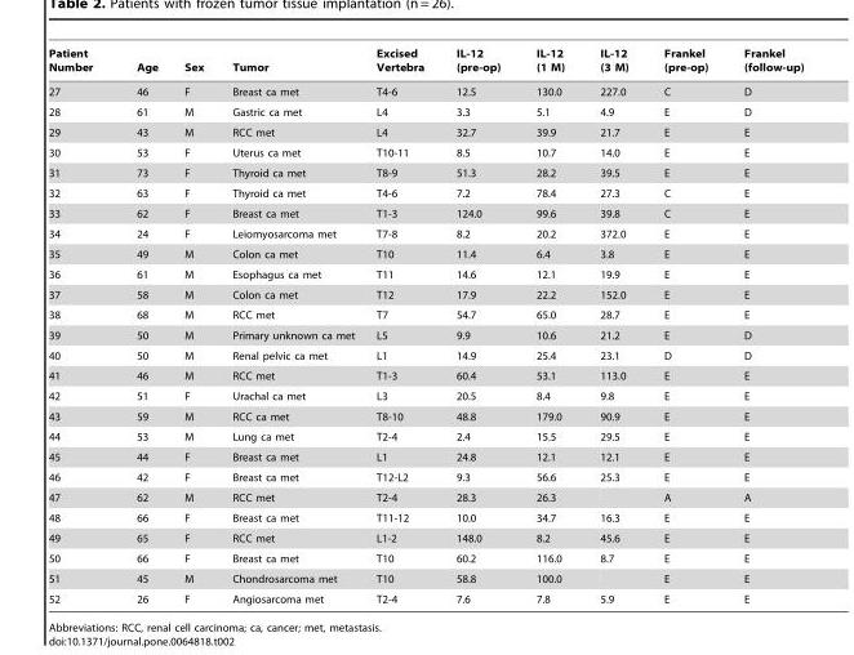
<table><thead><tr><td>Patient Number</td><td>Age</td><td>Sex</td><td>Tumor</td><td>Excised Vertebra</td><td>IL-12 (pre-op)</td><td>IL-12 (1 M)</td><td>IL-12 (3 M)</td><td>Frankel (pre-op)</td><td>Frankel (follow-up)</td></tr></thead><tbody><tr><td>27</td><td>46</td><td>F</td><td>Breast ca met</td><td>T4-6</td><td>12.5</td><td>130.0</td><td>227.0</td><td>C</td><td>D</td></tr><tr><td>28</td><td>61</td><td>M</td><td>Gastric ca met</td><td>L4</td><td>3.3</td><td>5.1</td><td>4.9</td><td>E</td><td>D</td></tr><tr><td>29</td><td>43</td><td>M</td><td>RCC met</td><td>L4</td><td>32.7</td><td>39.9</td><td>21.7</td><td>E</td><td>E</td></tr><tr><td>30</td><td>53</td><td>F</td><td>Uterus ca met</td><td>T10-11</td><td>8.5</td><td>10.7</td><td>14.0</td><td>E</td><td>E</td></tr><tr><td>31</td><td>73</td><td>F</td><td>Thyroid ca met</td><td>T8-9</td><td>51.3</td><td>28.2</td><td>39.5</td><td>E</td><td>E</td></tr><tr><td>32</td><td>63</td><td>F</td><td>Thyroid ca met</td><td>T4-6</td><td>7.2</td><td>78.4</td><td>27.3</td><td>C</td><td>E</td></tr><tr><td>33</td><td>62</td><td>F</td><td>Breast ca met</td><td>T1-3</td><td>124.0</td><td>99.6</td><td>39.8</td><td>C</td><td>E</td></tr><tr><td>34</td><td>24</td><td>F</td><td>Leiomyosarcoma met</td><td>T7-8</td><td>8.2</td><td>20.2</td><td>372.0</td><td>E</td><td>E</td></tr><tr><td>35</td><td>49</td><td>M</td><td>Colon ca met</td><td>T10</td><td>11.4</td><td>6.4</td><td>3.8</td><td>E</td><td>E</td></tr><tr><td>36</td><td>61</td><td>M</td><td>Esophagus ca met</td><td>T11</td><td>14.6</td><td>12.1</td><td>19.9</td><td>E</td><td>E</td></tr><tr><td>37</td><td>58</td><td>M</td><td>Colon ca met</td><td>T12</td><td>17.9</td><td>22.2</td><td>152.0</td><td>E</td><td>E</td></tr><tr><td>38</td><td>68</td><td>M</td><td>RCC met</td><td>T7</td><td>54.7</td><td>65.0</td><td>28.7</td><td>E</td><td>E</td></tr><tr><td>39</td><td>50</td><td>M</td><td>Primary unknown ca met</td><td>L5</td><td>9.9</td><td>10.6</td><td>21.2</td><td>E</td><td>D</td></tr><tr><td>40</td><td>50</td><td>M</td><td>Renal pelvic ca met</td><td>L1</td><td>14.9</td><td>25.4</td><td>23.1</td><td>D</td><td>D</td></tr><tr><td>41</td><td>46</td><td>M</td><td>RCC met</td><td>T1-3</td><td>60.4</td><td>53.1</td><td>113.0</td><td>E</td><td>E</td></tr><tr><td>42</td><td>51</td><td>F</td><td>Urachal ca met</td><td>L3</td><td>20.5</td><td>8.4</td><td>9.8</td><td>E</td><td>E</td></tr><tr><td>43</td><td>59</td><td>M</td><td>RCC ca met</td><td>T8-10</td><td>48.8</td><td>179.0</td><td>90.9</td><td>E</td><td>E</td></tr><tr><td>44</td><td>53</td><td>M</td><td>Lung ca met</td><td>T2-4</td><td>2.4</td><td>15.5</td><td>29.5</td><td>E</td><td>E</td></tr><tr><td>45</td><td>44</td><td>F</td><td>Breast ca met</td><td>L1</td><td>24.8</td><td>12.1</td><td>12.1</td><td>E</td><td>E</td></tr><tr><td>46</td><td>42</td><td>F</td><td>Breast ca met</td><td>T12-L2</td><td>9.3</td><td>56.6</td><td>25.3</td><td>E</td><td>E</td></tr><tr><td>47</td><td>62</td><td>M</td><td>RCC met</td><td>T2-4</td><td>28.3</td><td>26.3</td><td></td><td>A</td><td>A</td></tr><tr><td>48</td><td>66</td><td>F</td><td>Breast ca met</td><td>T11-12</td><td>10.0</td><td>34.7</td><td>16.3</td><td>E</td><td>E</td></tr><tr><td>49</td><td>65</td><td>F</td><td>RCC met</td><td>L1-2</td><td>148.0</td><td>8.2</td><td>45.6</td><td>E</td><td>E</td></tr><tr><td>50</td><td>66</td><td>F</td><td>Breast ca met</td><td>T10</td><td>60.2</td><td>116.0</td><td>8.7</td><td>E</td><td>E</td></tr><tr><td>51</td><td>45</td><td>M</td><td>Chondrosarcoma met</td><td>T10</td><td>58.8</td><td>100.0</td><td></td><td>E</td><td>E</td></tr><tr><td>52</td><td>26</td><td>F</td><td>Angiosarcoma met</td><td>T2-4</td><td>7.6</td><td>7.8</td><td>5.9</td><td>E</td><td>E</td></tr></tbody></table>